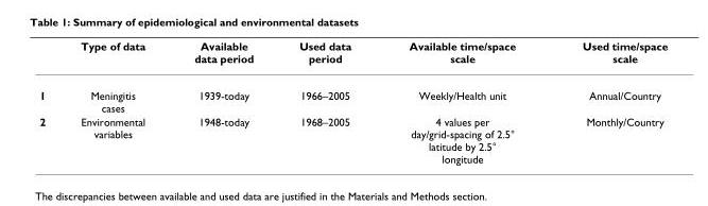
<table><thead><tr><td></td><td>Type of data</td><td>Available data period</td><td>Used data period</td><td>Available time/space scale</td><td>Used time/space scale</td></tr></thead><tbody><tr><td>1</td><td>Meningitis cases</td><td>1939-today</td><td>1966–2005</td><td>Weekly/Health unit</td><td>Annual/Country</td></tr><tr><td>2</td><td>Environmental variables</td><td>1948-today</td><td>1968–2005</td><td>4 values per day/grid-spacing of 2.5° latitude by 2.5° longitude</td><td>Monthly/Country</td></tr></tbody></table>